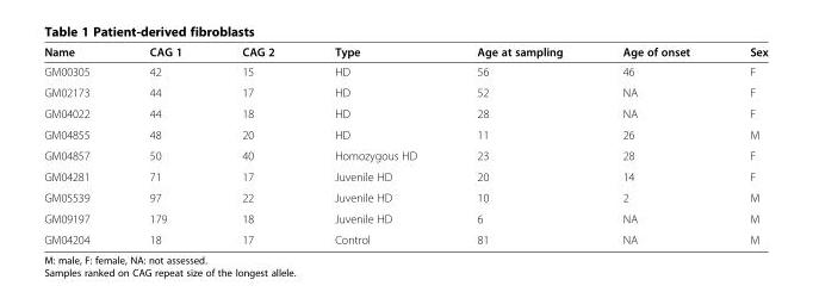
<table><thead><tr><td>Name</td><td>CAG 1</td><td>CAG 2</td><td>Type</td><td>Age at sampling</td><td>Age of onset</td><td>Sex</td></tr></thead><tbody><tr><td>GM00305</td><td>42</td><td>15</td><td>HD</td><td>56</td><td>46</td><td>F</td></tr><tr><td>GM02173</td><td>44</td><td>17</td><td>HD</td><td>52</td><td>NA</td><td>F</td></tr><tr><td>GM04022</td><td>44</td><td>18</td><td>HD</td><td>28</td><td>NA</td><td>F</td></tr><tr><td>GM04855</td><td>48</td><td>20</td><td>HD</td><td>11</td><td>26</td><td>M</td></tr><tr><td>GM04857</td><td>50</td><td>40</td><td>Homozygous HD</td><td>23</td><td>28</td><td>F</td></tr><tr><td>GM04281</td><td>71</td><td>17</td><td>Juvenile HD</td><td>20</td><td>14</td><td>F</td></tr><tr><td>GM05539</td><td>97</td><td>22</td><td>Juvenile HD</td><td>10</td><td>2</td><td>M</td></tr><tr><td>GM09197</td><td>179</td><td>18</td><td>Juvenile HD</td><td>6</td><td>NA</td><td>M</td></tr><tr><td>GM04204</td><td>18</td><td>17</td><td>Control</td><td>81</td><td>NA</td><td>M</td></tr></tbody></table>